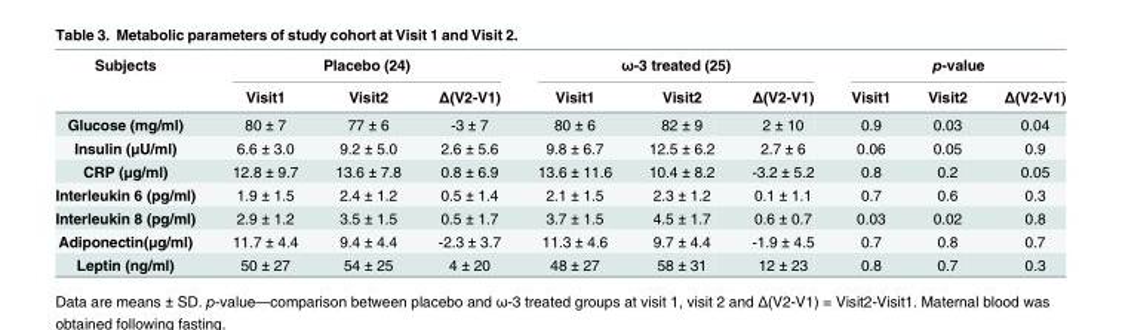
<table><thead><tr><td rowspan="2">Subjects</td><td colspan="3">Placebo (24)</td><td colspan="3">ω-3 treated (25)</td><td colspan="3">p-value</td></tr><tr><td>Visit1</td><td>Visit2</td><td>Δ(V2-V1)</td><td>Visit1</td><td>Visit2</td><td>Δ(V2-V1)</td><td>Visit1</td><td>Visit2</td><td>Δ(V2-V1)</td></tr></thead><tbody><tr><td>Glucose (mg/ml)</td><td>80 ± 7</td><td>77 ± 6</td><td>-3 ± 7</td><td>80 ± 6</td><td>82 ± 9</td><td>2 ± 10</td><td>0.9</td><td>0.03</td><td>0.04</td></tr><tr><td>Insulin (μU/ml)</td><td>6.6 ± 3.0</td><td>9.2 ± 5.0</td><td>2.6 ± 5.6</td><td>9.8 ± 6.7</td><td>12.5 ± 6.2</td><td>2.7 ± 6</td><td>0.06</td><td>0.05</td><td>0.9</td></tr><tr><td>CRP (μg/ml)</td><td>12.8 ± 9.7</td><td>13.6 ± 7.8</td><td>0.8 ± 6.9</td><td>13.6 ± 11.6</td><td>10.4 ± 8.2</td><td>-3.2 ± 5.2</td><td>0.8</td><td>0.2</td><td>0.05</td></tr><tr><td>Interleukin 6 (pg/ml)</td><td>1.9 ± 1.5</td><td>2.4 ± 1.2</td><td>0.5 ± 1.4</td><td>2.1 ± 1.5</td><td>2.3 ± 1.2</td><td>0.1 ± 1.1</td><td>0.7</td><td>0.6</td><td>0.3</td></tr><tr><td>Interleukin 8 (pg/ml)</td><td>2.9 ± 1.2</td><td>3.5 ± 1.5</td><td>0.5 ± 1.7</td><td>3.7 ± 1.5</td><td>4.5 ± 1.7</td><td>0.6 ± 0.7</td><td>0.03</td><td>0.02</td><td>0.8</td></tr><tr><td>Adiponectin(μg/ml)</td><td>11.7 ± 4.4</td><td>9.4 ± 4.4</td><td>-2.3 ± 3.7</td><td>11.3 ± 4.6</td><td>9.7 ± 4.4</td><td>-1.9 ± 4.5</td><td>0.7</td><td>0.8</td><td>0.7</td></tr><tr><td>Leptin (ng/ml)</td><td>50 ± 27</td><td>54 ± 25</td><td>4 ± 20</td><td>48 ± 27</td><td>58 ± 31</td><td>12 ± 23</td><td>0.8</td><td>0.7</td><td>0.3</td></tr></tbody></table>